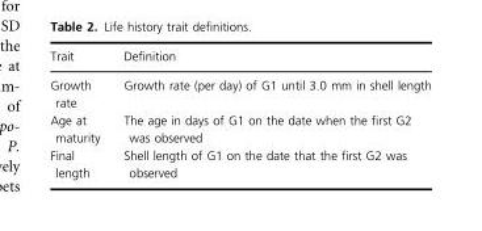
<table><thead><tr><td>Trait</td><td>Definition</td></tr></thead><tbody><tr><td>Growth rate</td><td>Growth rate (per day) of G1 until 3.0 mm in shell length</td></tr><tr><td>Age at maturity</td><td>The age in days of G1 on the date when the first G2 was observed</td></tr><tr><td>Final length</td><td>Shell length of G1 on the date that the first G2 was observed</td></tr></tbody></table>